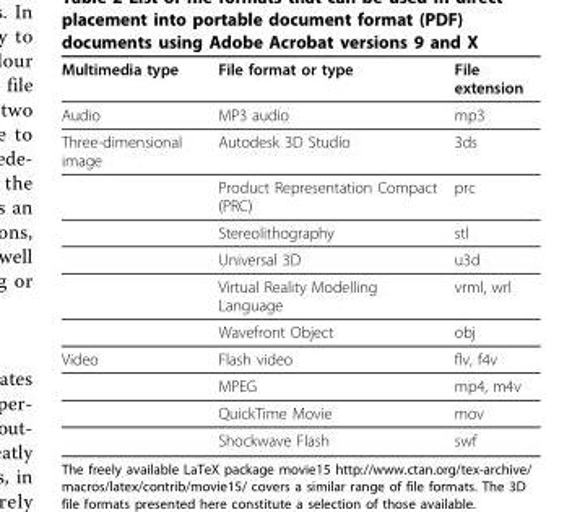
<table><thead><tr><td>Multimedia type</td><td>File format or type</td><td>File extension</td></tr></thead><tbody><tr><td>Audio</td><td>MP3 audio</td><td>mp3</td></tr><tr><td rowspan="6">Three-dimensional image</td><td>Autodesk 3D Studio</td><td>3ds</td></tr><tr><td>Product Representation Compact (PRC)</td><td>prc</td></tr><tr><td>Stereolithography</td><td>stl</td></tr><tr><td>Universal 3D</td><td>u3d</td></tr><tr><td>Virtual Reality Modelling Language</td><td>vrml, wrl</td></tr><tr><td>Wavefront Object</td><td>obj</td></tr><tr><td rowspan="4">Video</td><td>Flash video</td><td>flv, f4v</td></tr><tr><td>MPEG</td><td>mp4, m4v</td></tr><tr><td>QuickTime Movie</td><td>mov</td></tr><tr><td>Shockwave Flash</td><td>swf</td></tr></tbody></table>